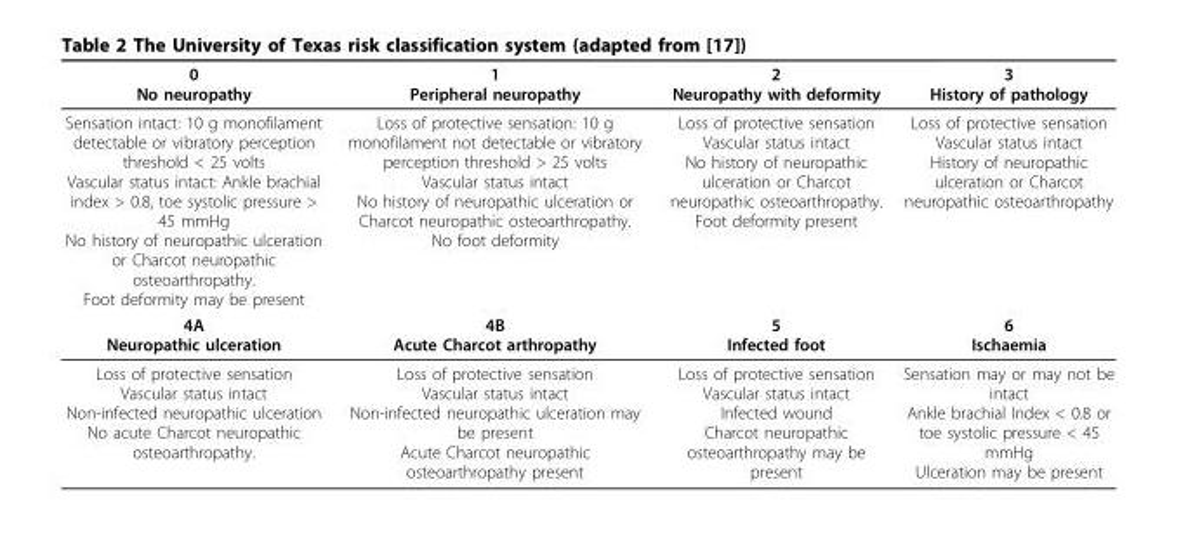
<table><thead><tr><td>0 No neuropathy</td><td>1 Peripheral neuropathy</td><td>2 Neuropathy with deformity</td><td>3 History of pathology</td></tr></thead><tbody><tr><td>Sensation intact: 10 g monofilament detectable or vibratory perception threshold &lt; 25 volts Vascular status intact: Ankle brachial index &gt; 0.8, toe systolic pressure &gt; 45 mmHg No history of neuropathic ulceration or Charcot neuropathic osteoarthropathy. Foot deformity may be present</td><td>Loss of protective sensation: 10 g monofilament not detectable or vibratory perception threshold &gt; 25 volts Vascular status intact No history of neuropathic ulceration or Charcot neuropathic osteoarthropathy. No foot deformity</td><td>Loss of protective sensation Vascular status intact No history of neuropathic ulceration or Charcot neuropathic osteoarthropathy. Foot deformity present</td><td>Loss of protective sensation Vascular status intact History of neuropathic ulceration or Charcot neuropathic osteoarthropathy</td></tr><tr><td>4A Neuropathic ulceration</td><td>4B Acute Charcot arthropathy</td><td>5 Infected foot</td><td>6 Ischaemia</td></tr><tr><td>Loss of protective sensation Vascular status intact Non-infected neuropathic ulceration No acute Charcot neuropathic osteoarthropathy.</td><td>Loss of protective sensation Vascular status intact Non-infected neuropathic ulceration may be present Acute Charcot neuropathic osteoarthropathy present</td><td>Loss of protective sensation Vascular status intact Infected wound Charcot neuropathic osteoarthropathy may be present</td><td>Sensation may or may not be intact Ankle brachial Index &lt; 0.8 or toe systolic pressure &lt; 45 mmHg Ulceration may be present</td></tr></tbody></table>